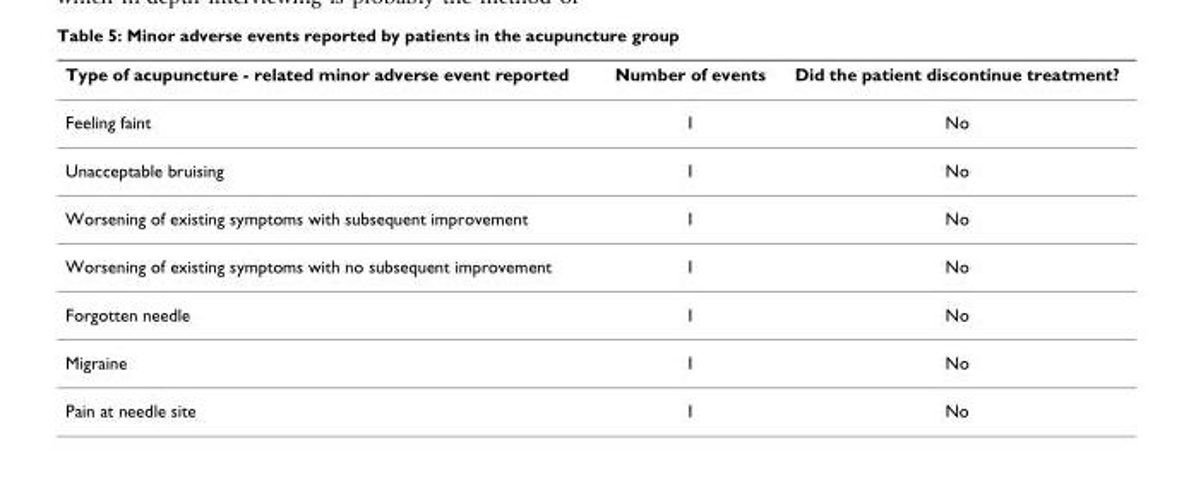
<table><thead><tr><td>Type of acupuncture - related minor adverse event reported</td><td>Number of events</td><td>Did the patient discontinue treatment?</td></tr></thead><tbody><tr><td>Feeling faint</td><td>1</td><td>No</td></tr><tr><td>Unacceptable bruising</td><td>1</td><td>No</td></tr><tr><td>Worsening of existing symptoms with subsequent improvement</td><td>1</td><td>No</td></tr><tr><td>Worsening of existing symptoms with no subsequent improvement</td><td>1</td><td>No</td></tr><tr><td>Forgotten needle</td><td>1</td><td>No</td></tr><tr><td>Migraine</td><td>1</td><td>No</td></tr><tr><td>Pain at needle site</td><td>1</td><td>No</td></tr></tbody></table>